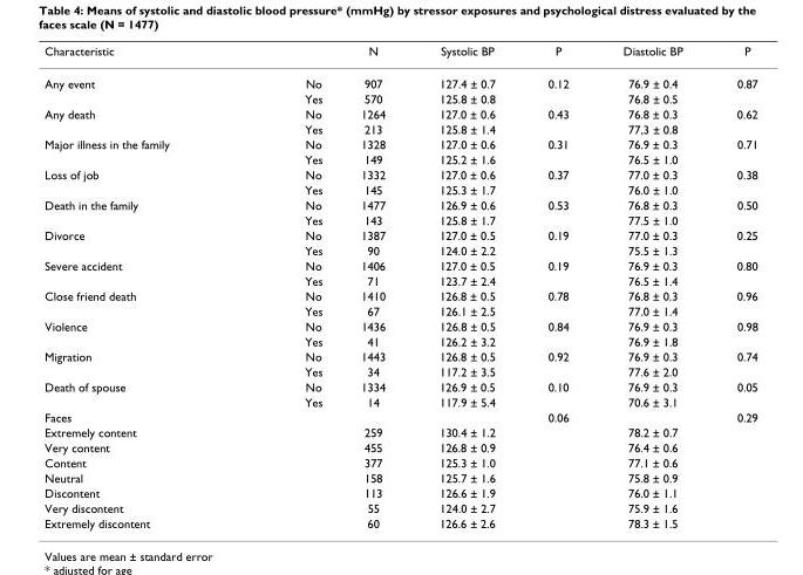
<table><thead><tr><td>Characteristic</td><td></td><td>N</td><td>Systolic BP</td><td>P</td><td>Diastolic BP</td><td>P</td></tr></thead><tbody><tr><td rowspan="2">Any event</td><td>No</td><td>907</td><td>127.4 ± 0.7</td><td>0.12</td><td>76.9 ± 0.4</td><td>0.87</td></tr><tr><td>Yes</td><td>570</td><td>125.8 ± 0.8</td><td></td><td>76.8 ± 0.5</td><td></td></tr><tr><td rowspan="2">Any death</td><td>No</td><td>1264</td><td>127.0 ± 0.6</td><td>0.43</td><td>76.8 ± 0.3</td><td>0.62</td></tr><tr><td>Yes</td><td>213</td><td>125.8 ± 1.4</td><td></td><td>77,3 ± 0.8</td><td></td></tr><tr><td rowspan="2">Major illness in the family</td><td>No</td><td>1328</td><td>127.0 ± 0.6</td><td>0.31</td><td>76.9 ± 0.3</td><td>0.71</td></tr><tr><td>Yes</td><td>149</td><td>125.2 ± 1.6</td><td></td><td>76.5 ± 1.0</td><td></td></tr><tr><td rowspan="2">Loss of job</td><td>No</td><td>1332</td><td>127.0 ± 0.6</td><td>0.37</td><td>77.0 ± 0.3</td><td>0.38</td></tr><tr><td>Yes</td><td>145</td><td>125.3 ± 1.7</td><td></td><td>76.0 ± 1.0</td><td></td></tr><tr><td rowspan="2">Death in the family</td><td>No</td><td>1477</td><td>126.9 ± 0.6</td><td>0.53</td><td>76.8 ± 0.3</td><td>0.50</td></tr><tr><td>Yes</td><td>143</td><td>125.8 ± 1.7</td><td></td><td>77.5 ± 1.0</td><td></td></tr><tr><td rowspan="2">Divorce</td><td>No</td><td>1387</td><td>127.0 ± 0.5</td><td>0.19</td><td>77.0 ± 0.3</td><td>0.25</td></tr><tr><td>Yes</td><td>90</td><td>124.0 ± 2.2</td><td></td><td>75.5 ± 1.3</td><td></td></tr><tr><td rowspan="2">Severe accident</td><td>No</td><td>1406</td><td>127.0 ± 0.5</td><td>0.19</td><td>76.9 ± 0.3</td><td>0.80</td></tr><tr><td>Yes</td><td>71</td><td>123.7 ± 2.4</td><td></td><td>76.5 ± 1.4</td><td></td></tr><tr><td rowspan="2">Close friend death</td><td>No</td><td>1410</td><td>126.8 ± 0.5</td><td>0.78</td><td>76.8 ± 0.3</td><td>0.96</td></tr><tr><td>Yes</td><td>67</td><td>126.1 ± 2.5</td><td></td><td>77.0 ± 1.4</td><td></td></tr><tr><td rowspan="2">Violence</td><td>No</td><td>1436</td><td>126.8 ± 0.5</td><td>0.84</td><td>76.9 ± 0.3</td><td>0.98</td></tr><tr><td>Yes</td><td>41</td><td>126.2 ± 3.2</td><td></td><td>76.9 ± 1.8</td><td></td></tr><tr><td rowspan="2">Migration</td><td>No</td><td>1443</td><td>126.8 ± 0.5</td><td>0.92</td><td>76.9 ± 0.3</td><td>0.74</td></tr><tr><td>Yes</td><td>34</td><td>117.2 ± 3.5</td><td></td><td>77.6 ± 2.0</td><td></td></tr><tr><td rowspan="2">Death of spouse</td><td>No</td><td>1334</td><td>126.9 ± 0.5</td><td>0.10</td><td>76.9 ± 0.3</td><td>0.05</td></tr><tr><td>Yes</td><td>14</td><td>117.9 ± 5.4</td><td></td><td>70.6 ± 3.1</td><td></td></tr><tr><td>Faces</td><td></td><td></td><td></td><td>0.06</td><td></td><td>0.29</td></tr><tr><td>Extremely content</td><td></td><td>259</td><td>130.4 ± 1.2</td><td></td><td>78.2 ± 0.7</td><td></td></tr><tr><td>Very content</td><td></td><td>455</td><td>126.8 ± 0.9</td><td></td><td>76.4 ± 0.6</td><td></td></tr><tr><td>Content</td><td></td><td>377</td><td>125.3 ± 1.0</td><td></td><td>77.1 ± 0.6</td><td></td></tr><tr><td>Neutral</td><td></td><td>158</td><td>125.7 ± 1.6</td><td></td><td>75.8 ± 0.9</td><td></td></tr><tr><td>Discontent</td><td></td><td>113</td><td>126.6 ± 1.9</td><td></td><td>76.0 ± 1.1</td><td></td></tr><tr><td>Very discontent</td><td></td><td>55</td><td>124.0 ± 2.7</td><td></td><td>75.9 ± 1.6</td><td></td></tr><tr><td>Extremely discontent</td><td></td><td>60</td><td>126.6 ± 2.6</td><td></td><td>78.3 ± 1.5</td><td></td></tr></tbody></table>